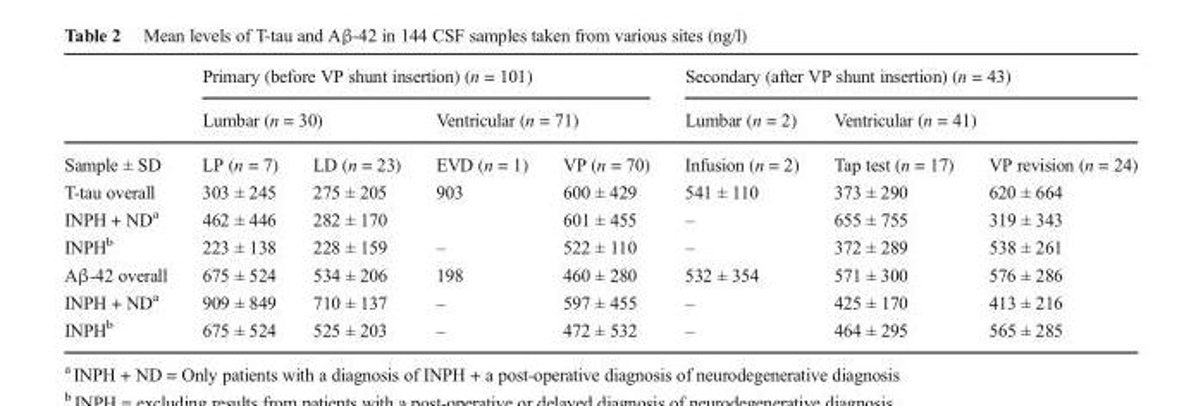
<table><thead><tr><td rowspan="3">Sample ± SD</td><td colspan="4">Primary (before VP shunt insertion) (n = 101)</td><td colspan="3">Secondary (after VP shunt insertion) (n = 43)</td></tr><tr><td colspan="2">Lumbar (n = 30)</td><td colspan="2">Ventricular (n = 71)</td><td rowspan="2">Lumbar (n = 2) Infusion (n = 2)</td><td colspan="2">Ventricular (n = 41)</td></tr><tr><td>LP (n = 7)</td><td>LD (n = 23)</td><td>EVD (n = 1)</td><td>VP (n = 70)</td><td>Tap test (n = 17)</td><td>VP revision (n = 24)</td></tr></thead><tbody><tr><td>T-tau overall</td><td>303 ± 245</td><td>275 ± 205</td><td>903</td><td>600 ± 429</td><td>541 ± 110</td><td>373 ± 290</td><td>620 ± 664</td></tr><tr><td>INPH + ND<sup>a</sup></td><td>462 ± 446</td><td>282 ± 170</td><td></td><td>601 ± 455</td><td>–</td><td>655 ± 755</td><td>319 ± 343</td></tr><tr><td>INPH<sup>b</sup></td><td>223 ± 138</td><td>228 ± 159</td><td>–</td><td>522 ± 110</td><td>–</td><td>372 ± 289</td><td>538 ± 261</td></tr><tr><td>Aβ-42 overall</td><td>675 ± 524</td><td>534 ± 206</td><td>198</td><td>460 ± 280</td><td>532 ± 354</td><td>571 ± 300</td><td>576 ± 286</td></tr><tr><td>INPH + ND<sup>a</sup></td><td>909 ± 849</td><td>710 ± 137</td><td>–</td><td>597 ± 455</td><td>–</td><td>425 ± 170</td><td>413 ± 216</td></tr><tr><td>INPH<sup>b</sup></td><td>675 ± 524</td><td>525 ± 203</td><td>–</td><td>472 ± 532</td><td>–</td><td>464 ± 295</td><td>565 ± 285</td></tr></tbody></table>